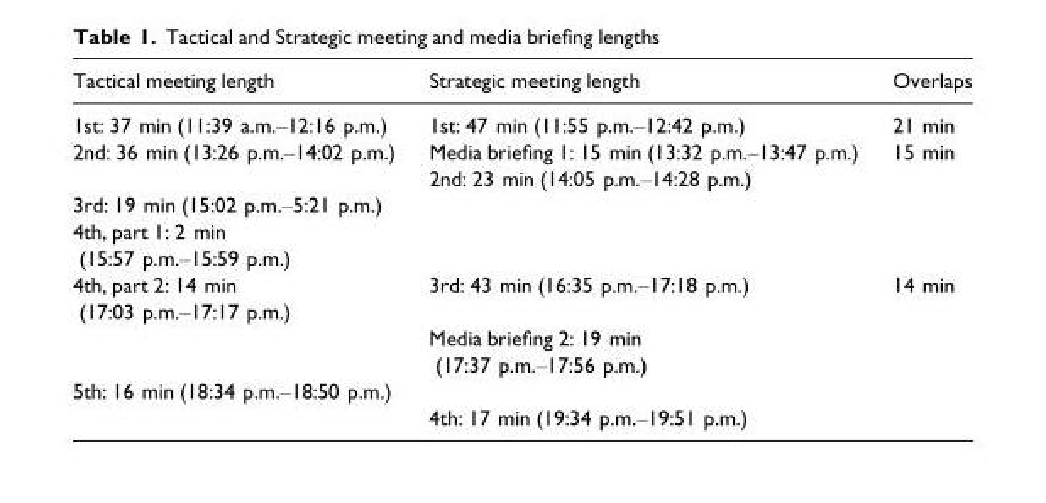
<table><thead><tr><td>Tactical meeting length</td><td>Strategic meeting length</td><td>Overlaps</td></tr></thead><tbody><tr><td>1st: 37 min (11:39 a.m.–12:16 p.m.)</td><td>1st: 47 min (11:55 p.m.–12:42 p.m.)</td><td>21 min</td></tr><tr><td rowspan="2">2nd: 36 min (13:26 p.m.–14:02 p.m.)</td><td>Media briefing 1: 15 min (13:32 p.m.–13:47 p.m.)</td><td>15 min</td></tr><tr><td>2nd: 23 min (14:05 p.m.–14:28 p.m.)</td><td></td></tr><tr><td colspan="3">3rd: 19 min (15:02 p.m.–5:21 p.m.)</td></tr><tr><td colspan="3">4th, part 1: 2 min (15:57 p.m.–15:59 p.m.)</td></tr><tr><td rowspan="2">4th, part 2: 14 min (17:03 p.m.–17:17 p.m.)</td><td>3rd: 43 min (16:35 p.m.–17:18 p.m.)</td><td>14 min</td></tr><tr><td>Media briefing 2: 19 min (17:37 p.m.–17:56 p.m.)</td><td></td></tr><tr><td colspan="3">5th: 16 min (18:34 p.m.–18:50 p.m.)</td></tr><tr><td></td><td>4th: 17 min (19:34 p.m.–19:51 p.m.)</td><td></td></tr></tbody></table>